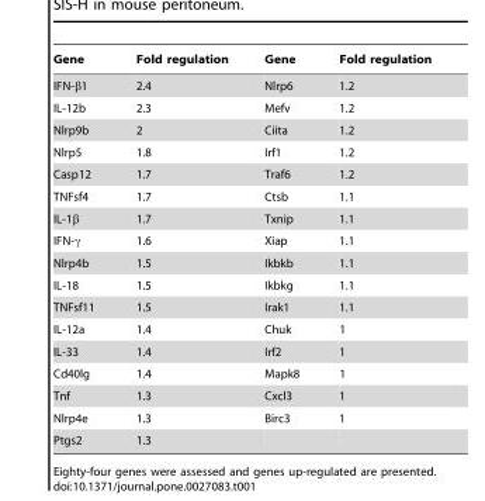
<table><thead><tr><td>Gene</td><td>Fold regulation</td><td>Gene</td><td>Fold regulation</td></tr></thead><tbody><tr><td>IFN-β1</td><td>2.4</td><td>Nlrp6</td><td>1.2</td></tr><tr><td>IL-12b</td><td>2.3</td><td>Mefv</td><td>1.2</td></tr><tr><td>Nlrp9b</td><td>2</td><td>Ciita</td><td>1.2</td></tr><tr><td>Nlrp5</td><td>1.8</td><td>Irf1</td><td>1.2</td></tr><tr><td>Casp12</td><td>1.7</td><td>Traf6</td><td>1.2</td></tr><tr><td>TNFsf4</td><td>1.7</td><td>Ctsb</td><td>1.1</td></tr><tr><td>IL-1β</td><td>1.7</td><td>Txnip</td><td>1.1</td></tr><tr><td>IFN-γ</td><td>1.6</td><td>Xiap</td><td>1.1</td></tr><tr><td>Nlrp4b</td><td>1.5</td><td>Ikbkb</td><td>1.1</td></tr><tr><td>IL-18</td><td>1.5</td><td>Ikbkg</td><td>1.1</td></tr><tr><td>TNFsf11</td><td>1.5</td><td>Irak1</td><td>1.1</td></tr><tr><td>IL-12a</td><td>1.4</td><td>Chuk</td><td>1</td></tr><tr><td>IL-33</td><td>1.4</td><td>Irf2</td><td>1</td></tr><tr><td>Cd40lg</td><td>1.4</td><td>Mapk8</td><td>1</td></tr><tr><td>Tnf</td><td>1.3</td><td>Cxcl3</td><td>1</td></tr><tr><td>Nlrp4e</td><td>1.3</td><td>Birc3</td><td>1</td></tr><tr><td>Ptgs2</td><td>1.3</td><td></td><td></td></tr></tbody></table>